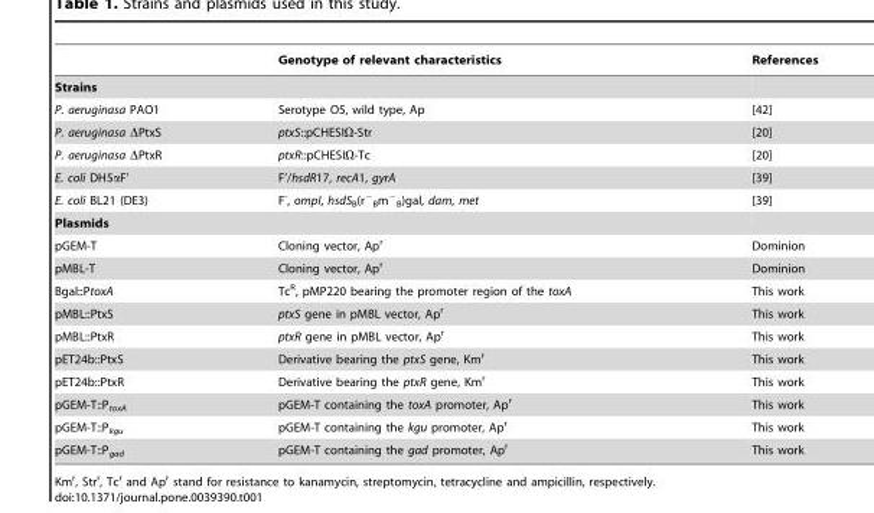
<table><thead><tr><td></td><td>Genotype of relevant characteristics</td><td>References</td></tr></thead><tbody><tr><td colspan="3">Strains</td></tr><tr><td>P. aeruginasa PAO1</td><td>Serotype O5, wild type, Ap</td><td>[42]</td></tr><tr><td>P. aeruginasa ΔPtxS</td><td>ptxS::pCHESIΩ-Str</td><td>[20]</td></tr><tr><td>P. aeruginasa ΔPtxR</td><td>ptxR::pCHESIΩ-Tc</td><td>[20]</td></tr><tr><td>E. coli DH5αF’</td><td>F’/hsdR17, recA1, gyrA</td><td>[39]</td></tr><tr><td>E. coli BL21 (DE3)</td><td>F<sup>-</sup>, ompI, hsdS<sub>B</sub>(r<sup>−</sup> <sub>B</sub>m<sup>−</sup> <sub>B</sub>)gal, dam, met</td><td>[39]</td></tr><tr><td colspan="3">Plasmids</td></tr><tr><td>pGEM-T</td><td>Cloning vector, Ap<sup>r</sup></td><td>Dominion</td></tr><tr><td>pMBL-T</td><td>Cloning vector, Ap<sup>r</sup></td><td>Dominion</td></tr><tr><td>Bgal::PtoxA</td><td>Tc<sup>R</sup>, pMP220 bearing the promoter region of the toxA</td><td>This work</td></tr><tr><td>pMBL::PtxS</td><td>ptxS gene in pMBL vector, Ap<sup>r</sup></td><td>This work</td></tr><tr><td>pMBL::PtxR</td><td>ptxR gene in pMBL vector, Ap<sup>r</sup></td><td>This work</td></tr><tr><td>pET24b::PtxS</td><td>Derivative bearing the ptxS gene, Km<sup>r</sup></td><td>This work</td></tr><tr><td>pET24b::PtxR</td><td>Derivative bearing the ptxR gene, Km<sup>r</sup></td><td>This work</td></tr><tr><td>pGEM-T::P<sub>toxA</sub></td><td>pGEM-T containing the toxA promoter, Ap<sup>r</sup></td><td>This work</td></tr><tr><td>pGEM-T::P<sub>kgu</sub></td><td>pGEM-T containing the kgu promoter, Ap<sup>r</sup></td><td>This work</td></tr><tr><td>pGEM-T::P<sub>gad</sub></td><td>pGEM-T containing the gad promoter, Ap<sup>r</sup></td><td>This work</td></tr></tbody></table>